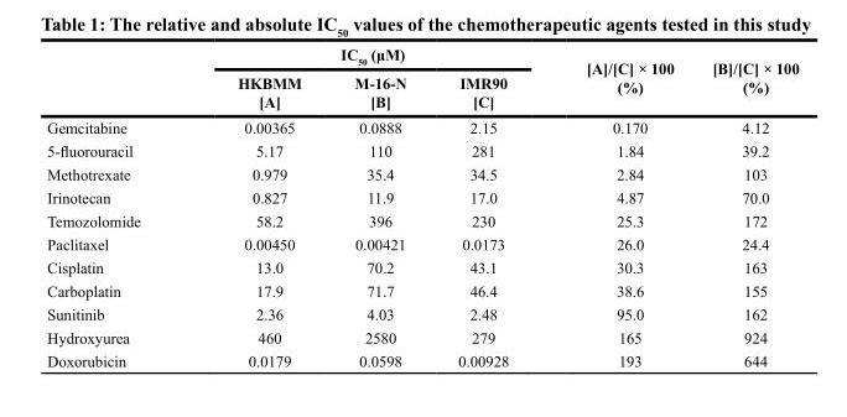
<table><thead><tr><td rowspan="2"></td><td colspan="3">IC<sub>50</sub> (μM)</td><td rowspan="2">[A]/[C] × 100 (%)</td><td rowspan="2">[B]/[C] × 100 (%)</td></tr><tr><td>HKBMM [A]</td><td>M-16-N [B]</td><td>IMR90 [C]</td></tr></thead><tbody><tr><td>Gemcitabine</td><td>0.00365</td><td>0.0888</td><td>2.15</td><td>0.170</td><td>4.12</td></tr><tr><td>5-fluorouracil</td><td>5.17</td><td>110</td><td>281</td><td>1.84</td><td>39.2</td></tr><tr><td>Methotrexate</td><td>0.979</td><td>35.4</td><td>34.5</td><td>2.84</td><td>103</td></tr><tr><td>Irinotecan</td><td>0.827</td><td>11.9</td><td>17.0</td><td>4.87</td><td>70.0</td></tr><tr><td>Temozolomide</td><td>58.2</td><td>396</td><td>230</td><td>25.3</td><td>172</td></tr><tr><td>Paclitaxel</td><td>0.00450</td><td>0.00421</td><td>0.0173</td><td>26.0</td><td>24.4</td></tr><tr><td>Cisplatin</td><td>13.0</td><td>70.2</td><td>43.1</td><td>30.3</td><td>163</td></tr><tr><td>Carboplatin</td><td>17.9</td><td>71.7</td><td>46.4</td><td>38.6</td><td>155</td></tr><tr><td>Sunitinib</td><td>2.36</td><td>4.03</td><td>2.48</td><td>95.0</td><td>162</td></tr><tr><td>Hydroxyurea</td><td>460</td><td>2580</td><td>279</td><td>165</td><td>924</td></tr><tr><td>Doxorubicin</td><td>0.0179</td><td>0.0598</td><td>0.00928</td><td>193</td><td>644</td></tr></tbody></table>